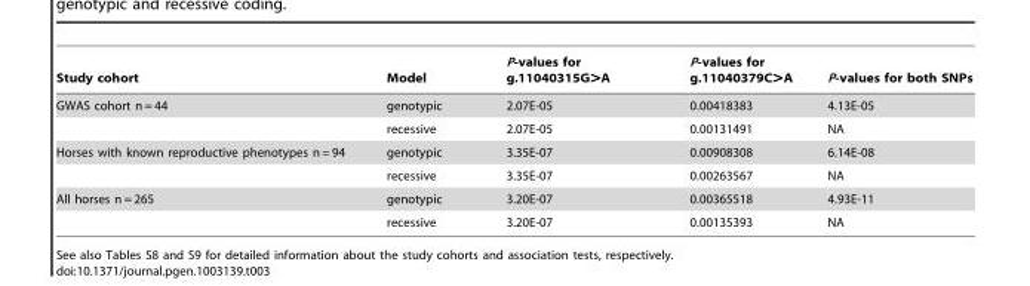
<table><thead><tr><td>Study cohort</td><td>Model</td><td>P-values for g.11040315G&gt;A</td><td>P-values for g.11040379C&gt;A</td><td>P-values for both SNPs</td></tr></thead><tbody><tr><td rowspan="2">GWAS cohort n = 44</td><td>genotypic</td><td>2.07E-05</td><td>0.00418383</td><td>4.13E-05</td></tr><tr><td>recessive</td><td>2.07E-05</td><td>0.00131491</td><td>NA</td></tr><tr><td rowspan="2">Horses with known reproductive phenotypes n = 94</td><td>genotypic</td><td>3.35E-07</td><td>0.00908308</td><td>6.14E-08</td></tr><tr><td>recessive</td><td>3.35E-07</td><td>0.00263567</td><td>NA</td></tr><tr><td rowspan="2">All horses n = 265</td><td>genotypic</td><td>3.20E-07</td><td>0.00365518</td><td>4.93E-11</td></tr><tr><td>recessive</td><td>3.20E-07</td><td>0.00135393</td><td>NA</td></tr></tbody></table>